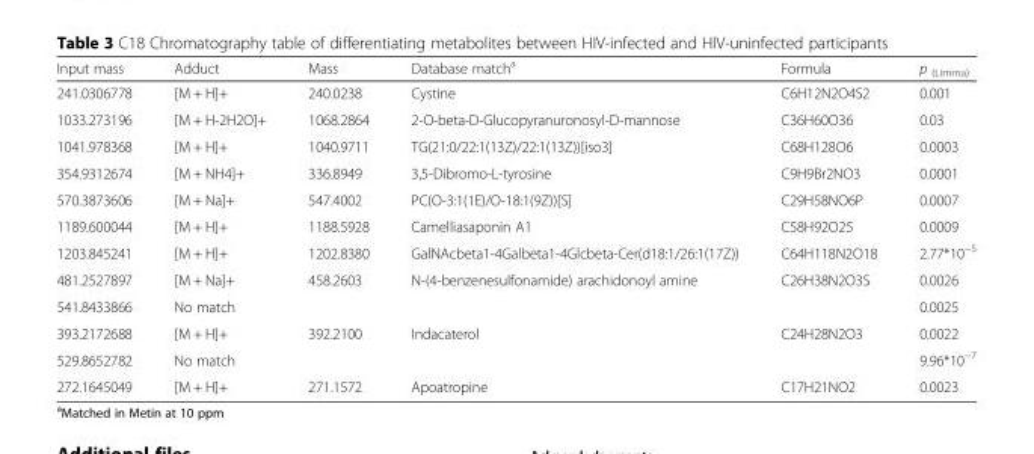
<table><thead><tr><td>Input mass</td><td>Adduct</td><td>Mass</td><td>Database match<sup>a</sup></td><td>Formula</td><td>p <sub>(Limma)</sub></td></tr></thead><tbody><tr><td>241.0306778</td><td>[M + H]+</td><td>240.0238</td><td>Cystine</td><td>C6H12N2O4S2</td><td>0.001</td></tr><tr><td>1033.273196</td><td>[M + H-2H2O]+</td><td>1068.2864</td><td>2-O-beta-D-Glucopyranuronosyl-D-mannose</td><td>C36H60O36</td><td>0.03</td></tr><tr><td>1041.978368</td><td>[M + H]+</td><td>1040.9711</td><td>TG(21:0/22:1(13Z)/22:1(13Z))[iso3]</td><td>C68H128O6</td><td>0.0003</td></tr><tr><td>354.9312674</td><td>[M + NH4]+</td><td>336.8949</td><td>3,5-Dibromo-L-tyrosine</td><td>C9H9Br2NO3</td><td>0.0001</td></tr><tr><td>570.3873606</td><td>[M + Na]+</td><td>547.4002</td><td>PC(O-3:1(1E)/O-18:1(9Z))[S]</td><td>C29H58NO6P</td><td>0.0007</td></tr><tr><td>1189.600044</td><td>[M + H]+</td><td>1188.5928</td><td>Camelliasaponin A1</td><td>C58H92O25</td><td>0.0009</td></tr><tr><td>1203.845241</td><td>[M + H]+</td><td>1202.8380</td><td>GalNAcbeta1-4Galbeta1-4Glcbeta-Cer(d18:1/26:1(17Z))</td><td>C64H118N2O18</td><td>2.77*10<sup>−5</sup></td></tr><tr><td>481.2527897</td><td>[M + Na]+</td><td>458.2603</td><td>N-(4-benzenesulfonamide) arachidonoyl amine</td><td>C26H38N2O3S</td><td>0.0026</td></tr><tr><td>541.8433866</td><td>No match</td><td></td><td></td><td></td><td>0.0025</td></tr><tr><td>393.2172688</td><td>[M + H]+</td><td>392.2100</td><td>Indacaterol</td><td>C24H28N2O3</td><td>0.0022</td></tr><tr><td>529.8652782</td><td>No match</td><td></td><td></td><td></td><td>9.96*10<sup>−7</sup></td></tr><tr><td>272.1645049</td><td>[M + H]+</td><td>271.1572</td><td>Apoatropine</td><td>C17H21NO2</td><td>0.0023</td></tr></tbody></table>